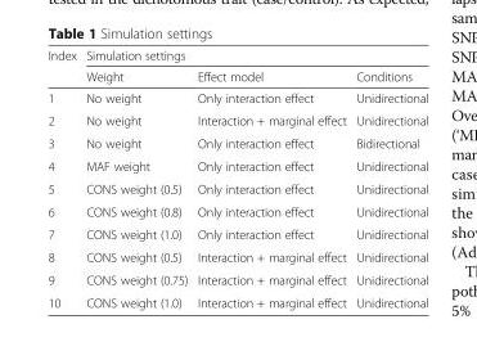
<table><thead><tr><td rowspan="2">Index</td><td colspan="3">Simulation settings</td></tr><tr><td>Weight</td><td>Effect model</td><td>Conditions</td></tr></thead><tbody><tr><td>1</td><td>No weight</td><td>Only interaction effect</td><td>Unidirectional</td></tr><tr><td>2</td><td>No weight</td><td>Interaction + marginal effect</td><td>Unidirectional</td></tr><tr><td>3</td><td>No weight</td><td>Only interaction effect</td><td>Bidirectional</td></tr><tr><td>4</td><td>MAF weight</td><td>Only interaction effect</td><td>Unidirectional</td></tr><tr><td>5</td><td>CONS weight (0.5)</td><td>Only interaction effect</td><td>Unidirectional</td></tr><tr><td>6</td><td>CONS weight (0.8)</td><td>Only interaction effect</td><td>Unidirectional</td></tr><tr><td>7</td><td>CONS weight (1.0)</td><td>Only interaction effect</td><td>Unidirectional</td></tr><tr><td>8</td><td>CONS weight (0.5)</td><td>Interaction + marginal effect</td><td>Unidirectional</td></tr><tr><td>9</td><td>CONS weight (0.75)</td><td>Interaction + marginal effect</td><td>Unidirectional</td></tr><tr><td>10</td><td>CONS weight (1.0)</td><td>Interaction + marginal effect</td><td>Unidirectional</td></tr></tbody></table>